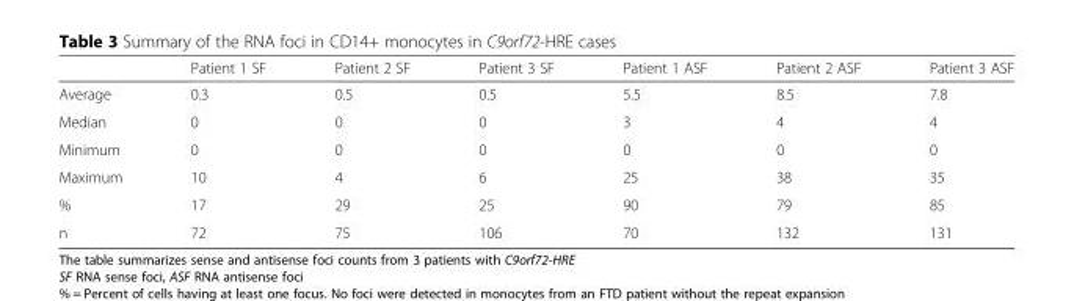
<table><thead><tr><td></td><td>Patient 1 SF</td><td>Patient 2 SF</td><td>Patient 3 SF</td><td>Patient 1 ASF</td><td>Patient 2 ASF</td><td>Patient 3 ASF</td></tr></thead><tbody><tr><td>Average</td><td>0.3</td><td>0.5</td><td>0.5</td><td>5.5</td><td>8.5</td><td>7.8</td></tr><tr><td>Median</td><td>0</td><td>0</td><td>0</td><td>3</td><td>4</td><td>4</td></tr><tr><td>Minimum</td><td>0</td><td>0</td><td>0</td><td>0</td><td>0</td><td>0</td></tr><tr><td>Maximum</td><td>10</td><td>4</td><td>6</td><td>25</td><td>38</td><td>35</td></tr><tr><td>%</td><td>17</td><td>29</td><td>25</td><td>90</td><td>79</td><td>85</td></tr><tr><td>n</td><td>72</td><td>75</td><td>106</td><td>70</td><td>132</td><td>131</td></tr></tbody></table>